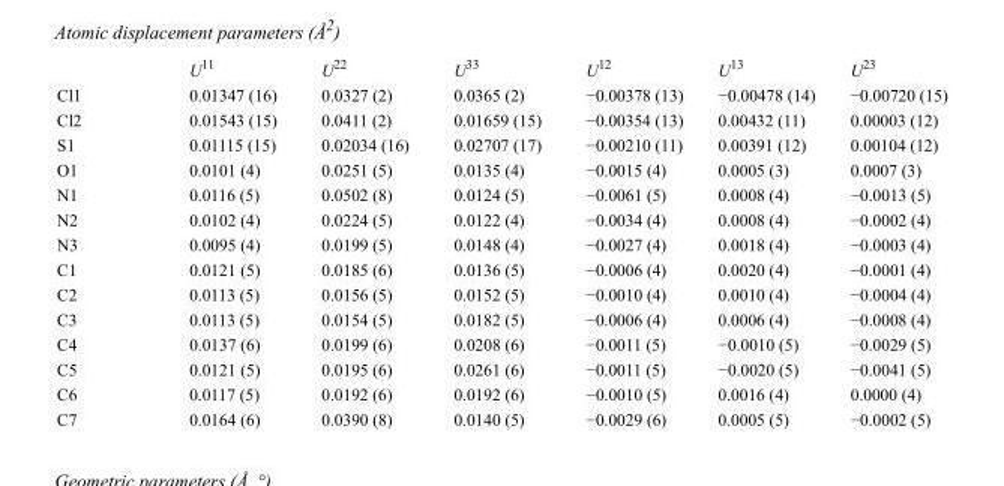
<table><thead><tr><td></td><td>U<sup>11</sup></td><td>U<sup>22</sup></td><td>U<sup>33</sup></td><td>U<sup>12</sup></td><td>U<sup>13</sup></td><td>U<sup>23</sup></td></tr></thead><tbody><tr><td>Cl1</td><td>0.01347 (16)</td><td>0.0327 (2)</td><td>0.0365 (2)</td><td>−0.00378 (13)</td><td>−0.00478 (14)</td><td>−0.00720 (15)</td></tr><tr><td>Cl2</td><td>0.01543 (15)</td><td>0.0411 (2)</td><td>0.01659 (15)</td><td>−0.00354 (13)</td><td>0.00432 (11)</td><td>0.00003 (12)</td></tr><tr><td>S1</td><td>0.01115 (15)</td><td>0.02034 (16)</td><td>0.02707 (17)</td><td>−0.00210 (11)</td><td>0.00391 (12)</td><td>0.00104 (12)</td></tr><tr><td>O1</td><td>0.0101 (4)</td><td>0.0251 (5)</td><td>0.0135 (4)</td><td>−0.0015 (4)</td><td>0.0005 (3)</td><td>0.0007 (3)</td></tr><tr><td>N1</td><td>0.0116 (5)</td><td>0.0502 (8)</td><td>0.0124 (5)</td><td>−0.0061 (5)</td><td>0.0008 (4)</td><td>−0.0013 (5)</td></tr><tr><td>N2</td><td>0.0102 (4)</td><td>0.0224 (5)</td><td>0.0122 (4)</td><td>−0.0034 (4)</td><td>0.0008 (4)</td><td>−0.0002 (4)</td></tr><tr><td>N3</td><td>0.0095 (4)</td><td>0.0199 (5)</td><td>0.0148 (4)</td><td>−0.0027 (4)</td><td>0.0018 (4)</td><td>−0.0003 (4)</td></tr><tr><td>C1</td><td>0.0121 (5)</td><td>0.0185 (6)</td><td>0.0136 (5)</td><td>−0.0006 (4)</td><td>0.0020 (4)</td><td>−0.0001 (4)</td></tr><tr><td>C2</td><td>0.0113 (5)</td><td>0.0156 (5)</td><td>0.0152 (5)</td><td>−0.0010 (4)</td><td>0.0010 (4)</td><td>−0.0004 (4)</td></tr><tr><td>C3</td><td>0.0113 (5)</td><td>0.0154 (5)</td><td>0.0182 (5)</td><td>−0.0006 (4)</td><td>0.0006 (4)</td><td>−0.0008 (4)</td></tr><tr><td>C4</td><td>0.0137 (6)</td><td>0.0199 (6)</td><td>0.0208 (6)</td><td>−0.0011 (5)</td><td>−0.0010 (5)</td><td>−0.0029 (5)</td></tr><tr><td>C5</td><td>0.0121 (5)</td><td>0.0195 (6)</td><td>0.0261 (6)</td><td>−0.0011 (5)</td><td>−0.0020 (5)</td><td>−0.0041 (5)</td></tr><tr><td>C6</td><td>0.0117 (5)</td><td>0.0192 (6)</td><td>0.0192 (6)</td><td>−0.0010 (5)</td><td>0.0016 (4)</td><td>0.0000 (4)</td></tr><tr><td>C7</td><td>0.0164 (6)</td><td>0.0390 (8)</td><td>0.0140 (5)</td><td>−0.0029 (6)</td><td>0.0005 (5)</td><td>−0.0002 (5)</td></tr></tbody></table>